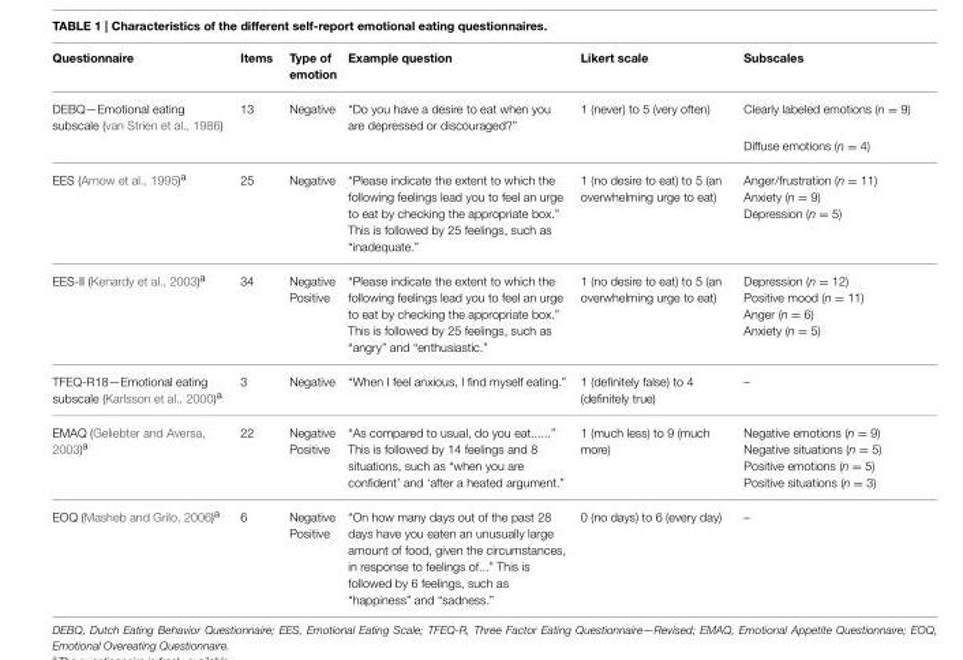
<table><thead><tr><td>Questionnaire</td><td>Items</td><td>Type of emotion</td><td>Example question</td><td>Likert scale</td><td>Subscales</td></tr></thead><tbody><tr><td rowspan="2">DEBQ—Emotional eating subscale (van Strien et al., 1986)</td><td>13</td><td>Negative</td><td>“Do you have a desire to eat when you are depressed or discouraged?”</td><td>1 (never) to 5 (very often)</td><td>Clearly labeled emotions (n = 9)</td></tr><tr><td></td><td></td><td></td><td></td><td>Diffuse emotions (n = 4)</td></tr><tr><td>EES (Arnow et al., 1995)<sup>a</sup></td><td>25</td><td>Negative</td><td>“Please indicate the extent to which the following feelings lead you to feel an urge to eat by checking the appropriate box.” This is followed by 25 feelings, such as “inadequate.”</td><td>1 (no desire to eat) to 5 (an overwhelming urge to eat)</td><td>Anger/frustration (n = 11) Anxiety (n = 9) Depression (n = 5)</td></tr><tr><td>EES-II (Kenardy et al., 2003)<sup>a</sup></td><td>34</td><td>Negative Positive</td><td>“Please indicate the extent to which the following feelings lead you to feel an urge to eat by checking the appropriate box.” This is followed by 25 feelings, such as “angry” and “enthusiastic.”</td><td>1 (no desire to eat) to 5 (an overwhelming urge to eat)</td><td>Depression (n = 12) Positive mood (n = 11) Anger (n = 6) Anxiety (n = 5)</td></tr><tr><td>TFEQ-R18—Emotional eating subscale (Karlsson et al., 2000)<sup>a</sup></td><td>3</td><td>Negative</td><td>“When I feel anxious, I find myself eating.”</td><td>1 (definitely false) to 4 (definitely true)</td><td>–</td></tr><tr><td>EMAQ (Geliebter and Aversa, 2003)<sup>a</sup></td><td>22</td><td>Negative Positive</td><td>“As compared to usual, do you eat......” This is followed by 14 feelings and 8 situations, such as “when you are confident’ and ‘after a heated argument.”</td><td>1 (much less) to 9 (much more)</td><td>Negative emotions (n = 9) Negative situations (n = 5) Positive emotions (n = 5) Positive situations (n = 3)</td></tr><tr><td>EOQ (Masheb and Grilo, 2006)<sup>a</sup></td><td>6</td><td>Negative Positive</td><td>“On how many days out of the past 28 days have you eaten an unusually large amount of food, given the circumstances, in response to feelings of...” This is followed by 6 feelings, such as “happiness” and “sadness.”</td><td>0 (no days) to 6 (every day)</td><td>–</td></tr></tbody></table>